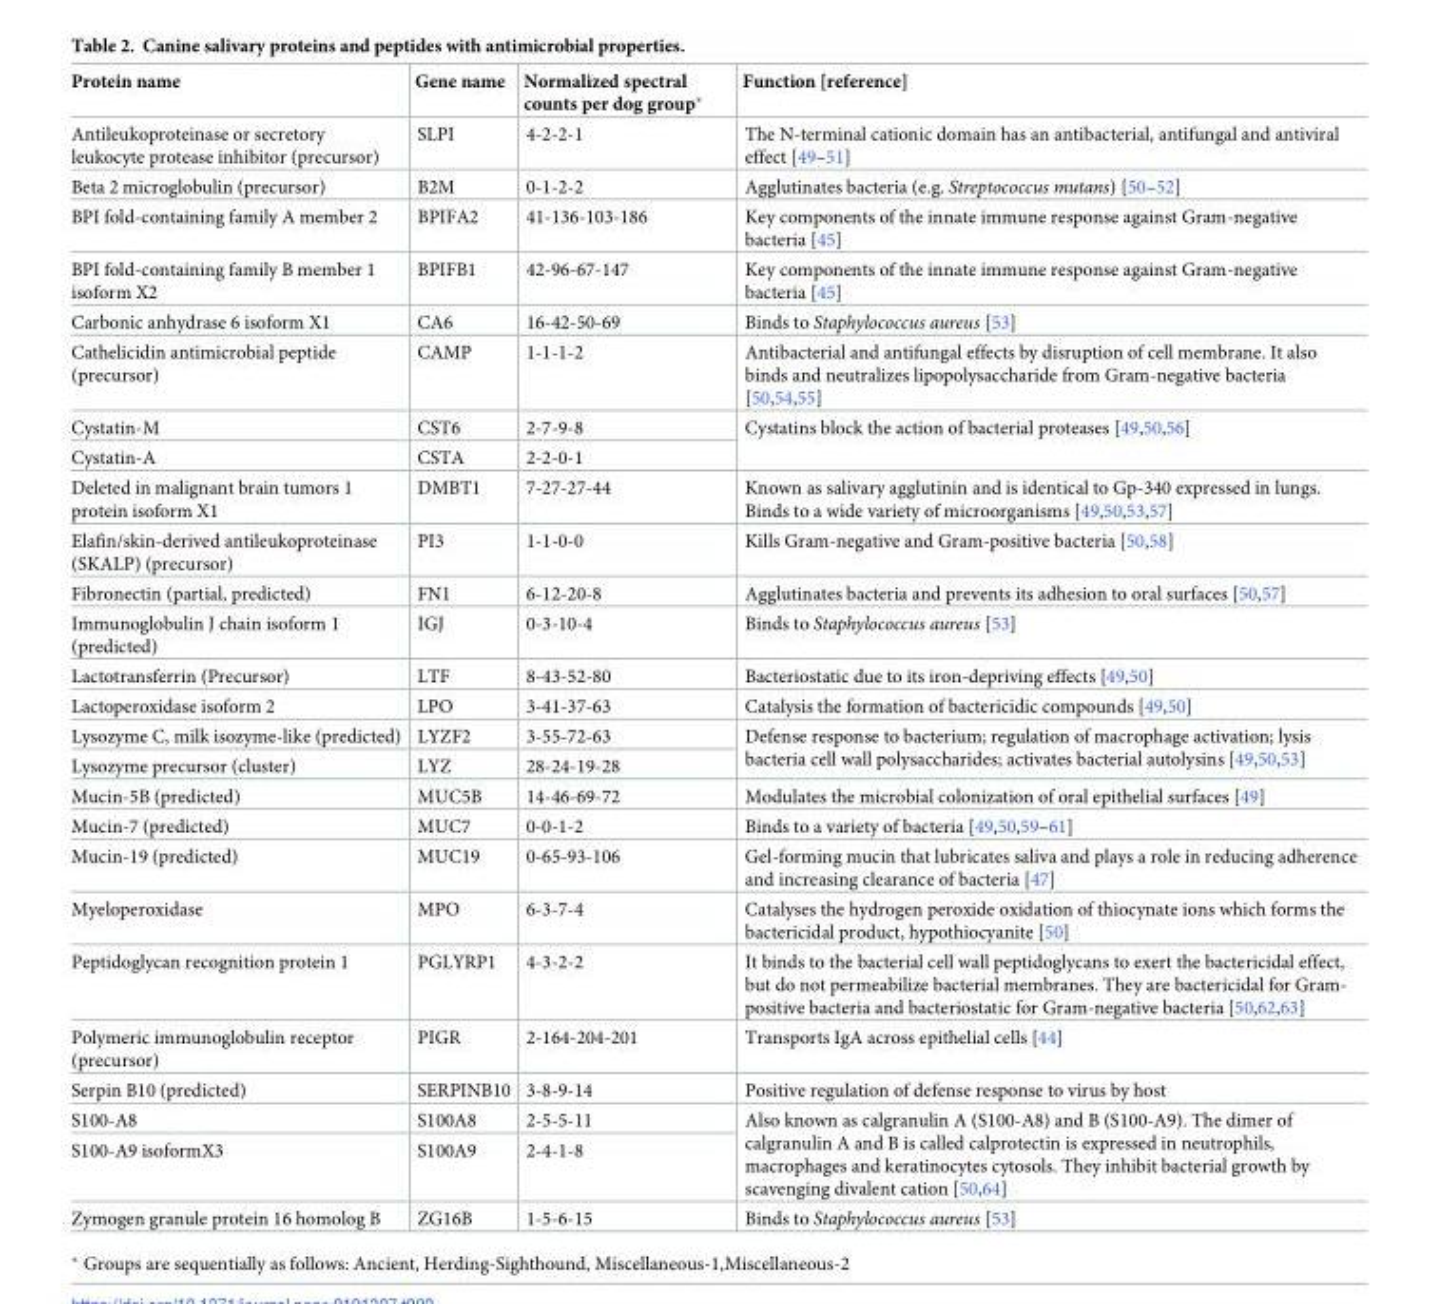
<table><thead><tr><td>Protein name</td><td>Gene name</td><td>Normalized spectral counts per dog group*</td><td>Function [reference]</td></tr></thead><tbody><tr><td>Antileukoproteinase or secretory leukocyte protease inhibitor (precursor)</td><td>SLPI</td><td>4-2-2-1</td><td>The N-terminal cationic domain has an antibacterial, antifungal and antiviral effect [49–51]</td></tr><tr><td>Beta 2 microglobulin (precursor)</td><td>B2M</td><td>0-1-2-2</td><td>Agglutinates bacteria (e.g. Streptococcus mutans) [50–52]</td></tr><tr><td>BPI fold-containing family A member 2</td><td>BPIFA2</td><td>41-136-103-186</td><td>Key components of the innate immune response against Gram-negative bacteria [45]</td></tr><tr><td>BPI fold-containing family B member 1 isoform X2</td><td>BPIFB1</td><td>42-96-67-147</td><td>Key components of the innate immune response against Gram-negative bacteria [45]</td></tr><tr><td>Carbonic anhydrase 6 isoform X1</td><td>CA6</td><td>16-42-50-69</td><td>Binds to Staphylococcus aureus [53]</td></tr><tr><td>Cathelicidin antimicrobial peptide (precursor)</td><td>CAMP</td><td>1-1-1-2</td><td>Antibacterial and antifungal effects by disruption of cell membrane. It also binds and neutralizes lipopolysaccharide from Gram-negative bacteria [50,54,55]</td></tr><tr><td>Cystatin-M</td><td>CST6</td><td>2-7-9-8</td><td rowspan="2">Cystatins block the action of bacterial proteases [49,50,56]</td></tr><tr><td>Cystatin-A</td><td>CSTA</td><td>2-2-0-1</td></tr><tr><td>Deleted in malignant brain tumors 1 protein isoform X1</td><td>DMBT1</td><td>7-27-27-44</td><td>Known as salivary agglutinin and is identical to Gp-340 expressed in lungs. Binds to a wide variety of microorganisms [49,50,53,57]</td></tr><tr><td>Elafin/skin-derived antileukoproteinase (SKALP) (precursor)</td><td>PI3</td><td>1-1-0-0</td><td>Kills Gram-negative and Gram-positive bacteria [50,58]</td></tr><tr><td>Fibronectin (partial, predicted)</td><td>FN1</td><td>6-12-20-8</td><td>Agglutinates bacteria and prevents its adhesion to oral surfaces [50,57]</td></tr><tr><td>Immunoglobulin J chain isoform 1 (predicted)</td><td>IGJ</td><td>0-3-10-4</td><td>Binds to Staphylococcus aureus [53]</td></tr><tr><td>Lactotransferrin (Precursor)</td><td>LTF</td><td>8-43-52-80</td><td>Bacteriostatic due to its iron-depriving effects [49,50]</td></tr><tr><td>Lactoperoxidase isoform 2</td><td>LPO</td><td>3-41-37-63</td><td>Catalysis the formation of bactericidic compounds [49,50]</td></tr><tr><td>Lysozyme C, milk isozyme-like (predicted)</td><td>LYZF2</td><td>3-55-72-63</td><td rowspan="2">Defense response to bacterium; regulation of macrophage activation; lysis bacteria cell wall polysaccharides; activates bacterial autolysins [49,50,53]</td></tr><tr><td>Lysozyme precursor (cluster)</td><td>LYZ</td><td>28-24-19-28</td></tr><tr><td>Mucin-5B (predicted)</td><td>MUC5B</td><td>14-46-69-72</td><td>Modulates the microbial colonization of oral epithelial surfaces [49]</td></tr><tr><td>Mucin-7 (predicted)</td><td>MUC7</td><td>0-0-1-2</td><td>Binds to a variety of bacteria [49,50,59–61]</td></tr><tr><td>Mucin-19 (predicted)</td><td>MUC19</td><td>0-65-93-106</td><td>Gel-forming mucin that lubricates saliva and plays a role in reducing adherence and increasing clearance of bacteria [47]</td></tr><tr><td>Myeloperoxidase</td><td>MPO</td><td>6-3-7-4</td><td>Catalyses the hydrogen peroxide oxidation of thiocynate ions which forms the bactericidal product, hypothiocyanite [50]</td></tr><tr><td>Peptidoglycan recognition protein 1</td><td>PGLYRP1</td><td>4-3-2-2</td><td>It binds to the bacterial cell wall peptidoglycans to exert the bactericidal effect, but do not permeabilize bacterial membranes. They are bactericidal for Gram- positive bacteria and bacteriostatic for Gram-negative bacteria [50,62,63]</td></tr><tr><td>Polymeric immunoglobulin receptor (precursor)</td><td>PIGR</td><td>2-164-204-201</td><td>Transports IgA across epithelial cells [44]</td></tr><tr><td>Serpin B10 (predicted)</td><td>SERPINB10</td><td>3-8-9-14</td><td>Positive regulation of defense response to virus by host</td></tr><tr><td>S100-A8</td><td>S100A8</td><td>2-5-5-11</td><td rowspan="2">Also known as calgranulin A (S100-A8) and B (S100-A9). The dimer of calgranulin A and B is called calprotectin is expressed in neutrophils, macrophages and keratinocytes cytosols. They inhibit bacterial growth by scavenging divalent cation [50,64]</td></tr><tr><td>S100-A9 isoformX3</td><td>S100A9</td><td>2-4-1-8</td></tr><tr><td>Zymogen granule protein 16 homolog B</td><td>ZG16B</td><td>1-5-6-15</td><td>Binds to Staphylococcus aureus [53]</td></tr></tbody></table>